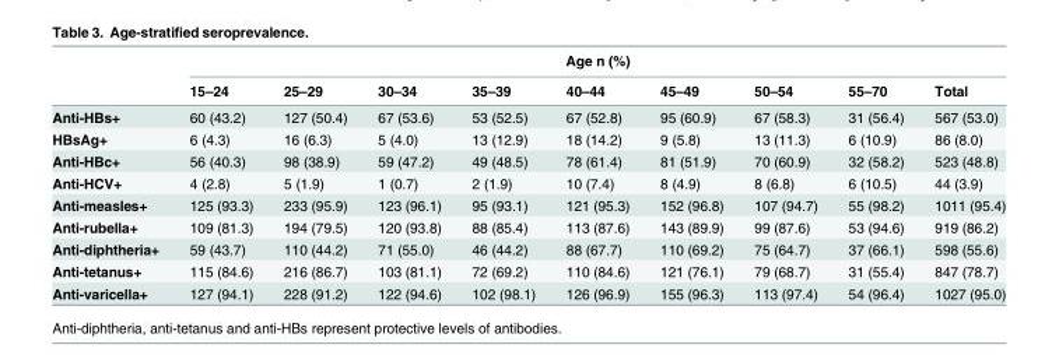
<table><thead><tr><td rowspan="2"></td><td colspan="9">Age n (%)</td></tr><tr><td>15–24</td><td>25–29</td><td>30–34</td><td>35–39</td><td>40–44</td><td>45–49</td><td>50–54</td><td>55–70</td><td>Total</td></tr></thead><tbody><tr><td>Anti-HBs+</td><td>60 (43.2)</td><td>127 (50.4)</td><td>67 (53.6)</td><td>53 (52.5)</td><td>67 (52.8)</td><td>95 (60.9)</td><td>67 (58.3)</td><td>31 (56.4)</td><td>567 (53.0)</td></tr><tr><td>HBsAg+</td><td>6 (4.3)</td><td>16 (6.3)</td><td>5 (4.0)</td><td>13 (12.9)</td><td>18 (14.2)</td><td>9 (5.8)</td><td>13 (11.3)</td><td>6 (10.9)</td><td>86 (8.0)</td></tr><tr><td>Anti-HBc+</td><td>56 (40.3)</td><td>98 (38.9)</td><td>59 (47.2)</td><td>49 (48.5)</td><td>78 (61.4)</td><td>81 (51.9)</td><td>70 (60.9)</td><td>32 (58.2)</td><td>523 (48.8)</td></tr><tr><td>Anti-HCV+</td><td>4 (2.8)</td><td>5 (1.9)</td><td>1 (0.7)</td><td>2 (1.9)</td><td>10 (7.4)</td><td>8 (4.9)</td><td>8 (6.8)</td><td>6 (10.5)</td><td>44 (3.9)</td></tr><tr><td>Anti-measles+</td><td>125 (93.3)</td><td>233 (95.9)</td><td>123 (96.1)</td><td>95 (93.1)</td><td>121 (95.3)</td><td>152 (96.8)</td><td>107 (94.7)</td><td>55 (98.2)</td><td>1011 (95.4)</td></tr><tr><td>Anti-rubella+</td><td>109 (81.3)</td><td>194 (79.5)</td><td>120 (93.8)</td><td>88 (85.4)</td><td>113 (87.6)</td><td>143 (89.9)</td><td>99 (87.6)</td><td>53 (94.6)</td><td>919 (86.2)</td></tr><tr><td>Anti-diphtheria+</td><td>59 (43.7)</td><td>110 (44.2)</td><td>71 (55.0)</td><td>46 (44.2)</td><td>88 (67.7)</td><td>110 (69.2)</td><td>75 (64.7)</td><td>37 (66.1)</td><td>598 (55.6)</td></tr><tr><td>Anti-tetanus+</td><td>115 (84.6)</td><td>216 (86.7)</td><td>103 (81.1)</td><td>72 (69.2)</td><td>110 (84.6)</td><td>121 (76.1)</td><td>79 (68.7)</td><td>31 (55.4)</td><td>847 (78.7)</td></tr><tr><td>Anti-varicella+</td><td>127 (94.1)</td><td>228 (91.2)</td><td>122 (94.6)</td><td>102 (98.1)</td><td>126 (96.9)</td><td>155 (96.3)</td><td>113 (97.4)</td><td>54 (96.4)</td><td>1027 (95.0)</td></tr></tbody></table>